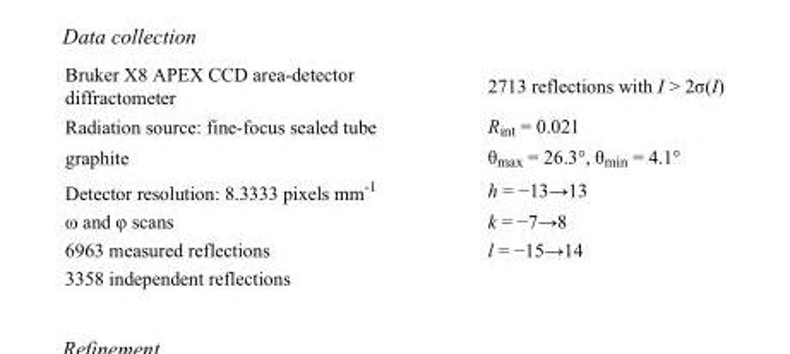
<table><tbody><tr><td>Bruker X8 APEX CCD area-detector diffractometer</td><td>2713 reflections with I &gt; 2σ(I)</td></tr><tr><td>Radiation source: fine-focus sealed tube</td><td>R<sub>int</sub> = 0.021</td></tr><tr><td>graphite</td><td>θ<sub>max</sub> = 26.3°, θ<sub>min</sub> = 4.1°</td></tr><tr><td>Detector resolution: 8.3333 pixels mm<sup>-1</sup></td><td>h = −13→13</td></tr><tr><td>ω and φ scans</td><td>k = −7→8</td></tr><tr><td>6963 measured reflections</td><td>l = −15→14</td></tr><tr><td>3358 independent reflections</td><td></td></tr></tbody></table>